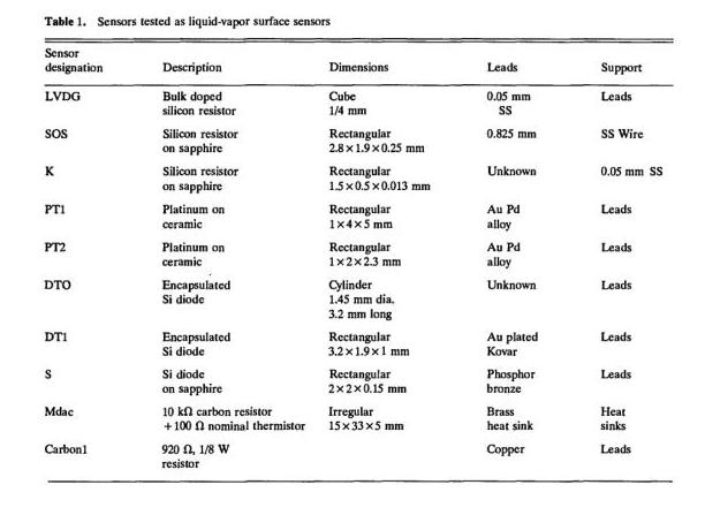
<table><thead><tr><td>Sensor designation</td><td>Description</td><td>Dimensions</td><td>Leads</td><td>Support</td></tr></thead><tbody><tr><td>LVDG</td><td>Bulk doped silicon resistor</td><td>Cube 1/4 mm</td><td>0.05 ram SS</td><td>Leads</td></tr><tr><td>SOS</td><td>Silicon resistor on sapphire</td><td>Rectangular 2.8 X 1.9 X 0.25 mm</td><td>0.825 mm</td><td>SS Wire</td></tr><tr><td>K</td><td>Silicon resistor on sapphire</td><td>Rectangular 1.5x0.5x0.013 mm</td><td>Unknown</td><td>0.05 mm SS</td></tr><tr><td>PTl</td><td>Platinum on ceramic</td><td>Rectangular 1x4x5 mm</td><td>AuPd alloy</td><td>Leads</td></tr><tr><td>PT2</td><td>Platinum on ceramic</td><td>Rectangular 1x2x2.3 mm</td><td>AuPd alloy</td><td>Leads</td></tr><tr><td>DTO</td><td>Encapsulated Si diode</td><td>Cylinder 1.45 mm dia. 3.2 ram long</td><td>Unknown</td><td>Leads</td></tr><tr><td>DTI</td><td>Encapsulated Si diode</td><td>Rectangular 3.2x1.9x1 mm</td><td>Au plated Kovar</td><td>Leads</td></tr><tr><td>S</td><td>Si diode on sapphire</td><td>Rectangular 2x2x0.15 mm</td><td>Phosphor bronze</td><td>Leads</td></tr><tr><td>Mdac</td><td>10 kft carbon resistor +100 fi nominal thermistor</td><td>Irregular 15x33x5 mm</td><td>Brass heat sink</td><td>Heat sinks</td></tr><tr><td>Carbonl</td><td>920 ft, 1/8 W resistor</td><td></td><td>Copper</td><td>Leads</td></tr></tbody></table>